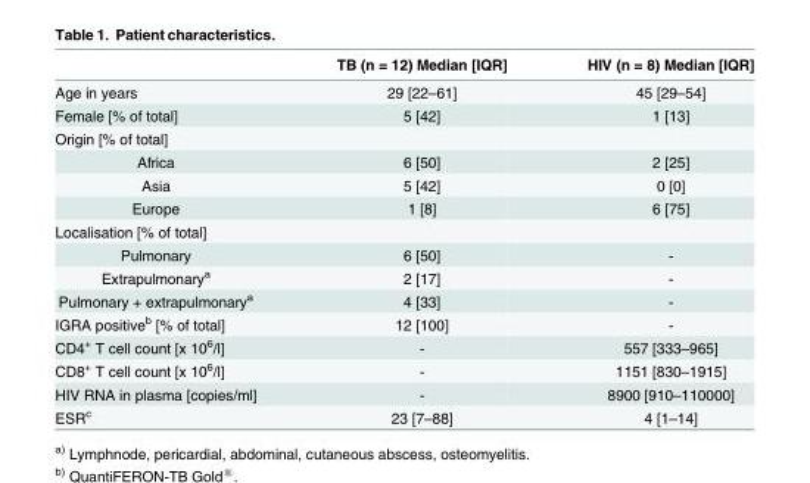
<table><thead><tr><td></td><td>TB (n = 12) Median [IQR]</td><td>HIV (n = 8) Median [IQR]</td></tr></thead><tbody><tr><td>Age in years</td><td>29 [22–61]</td><td>45 [29–54]</td></tr><tr><td>Female [% of total]</td><td>5 [42]</td><td>1 [13]</td></tr><tr><td colspan="3">Origin [% of total]</td></tr><tr><td>Africa</td><td>6 [50]</td><td>2 [25]</td></tr><tr><td>Asia</td><td>5 [42]</td><td>0 [0]</td></tr><tr><td>Europe</td><td>1 [8]</td><td>6 [75]</td></tr><tr><td colspan="3">Localisation [% of total]</td></tr><tr><td>Pulmonary</td><td>6 [50]</td><td>-</td></tr><tr><td>Extrapulmonary<sup>a</sup></td><td>2 [17]</td><td>-</td></tr><tr><td>Pulmonary + extrapulmonary<sup>a</sup></td><td>4 [33]</td><td>-</td></tr><tr><td>IGRA positive<sup>b</sup> [% of total]</td><td>12 [100]</td><td>-</td></tr><tr><td>CD4<sup>+</sup> T cell count [x 10<sup>6</sup>/l]</td><td>-</td><td>557 [333–965]</td></tr><tr><td>CD8<sup>+</sup> T cell count [x 10<sup>6</sup>/l]</td><td>-</td><td>1151 [830–1915]</td></tr><tr><td>HIV RNA in plasma [copies/ml]</td><td>-</td><td>8900 [910–110000]</td></tr><tr><td>ESR<sup>c</sup></td><td>23 [7–88]</td><td>4 [1–14]</td></tr></tbody></table>